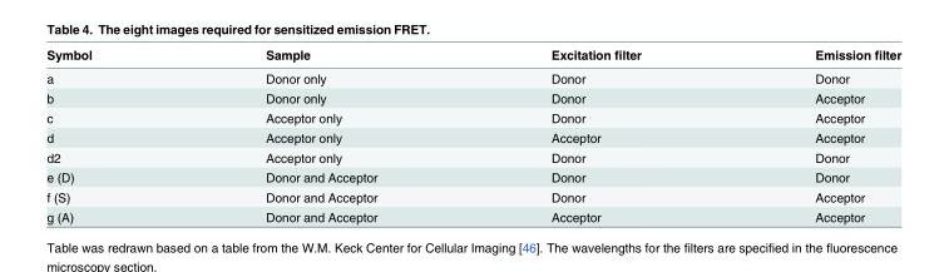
<table><thead><tr><td>Symbol</td><td>Sample</td><td>Excitation filter</td><td>Emission filter</td></tr></thead><tbody><tr><td>a</td><td>Donor only</td><td>Donor</td><td>Donor</td></tr><tr><td>b</td><td>Donor only</td><td>Donor</td><td>Acceptor</td></tr><tr><td>c</td><td>Acceptor only</td><td>Donor</td><td>Acceptor</td></tr><tr><td>d</td><td>Acceptor only</td><td>Acceptor</td><td>Acceptor</td></tr><tr><td>d2</td><td>Acceptor only</td><td>Donor</td><td>Donor</td></tr><tr><td>e (D)</td><td>Donor and Acceptor</td><td>Donor</td><td>Donor</td></tr><tr><td>f (S)</td><td>Donor and Acceptor</td><td>Donor</td><td>Acceptor</td></tr><tr><td>g (A)</td><td>Donor and Acceptor</td><td>Acceptor</td><td>Acceptor</td></tr></tbody></table>